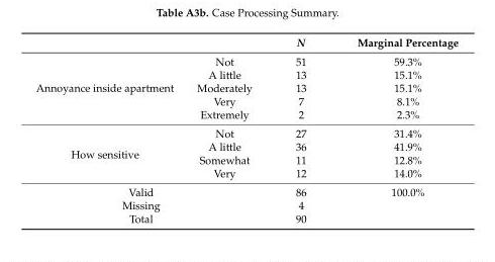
<table><thead><tr><td></td><td></td><td>N</td><td>Marginal Percentage</td></tr></thead><tbody><tr><td rowspan="5">Annoyance inside apartment</td><td>Not</td><td>51</td><td>59.3%</td></tr><tr><td>A little</td><td>13</td><td>15.1%</td></tr><tr><td>Moderately</td><td>13</td><td>15.1%</td></tr><tr><td>Very</td><td>7</td><td>8.1%</td></tr><tr><td>Extremely</td><td>2</td><td>2.3%</td></tr><tr><td rowspan="4">How sensitive</td><td>Not</td><td>27</td><td>31.4%</td></tr><tr><td>A little</td><td>36</td><td>41.9%</td></tr><tr><td>Somewhat</td><td>11</td><td>12.8%</td></tr><tr><td>Very</td><td>12</td><td>14.0%</td></tr><tr><td colspan="2">Valid</td><td>86</td><td>100.0%</td></tr><tr><td colspan="2">Missing</td><td>4</td><td></td></tr><tr><td colspan="2">Total</td><td>90</td><td></td></tr></tbody></table>